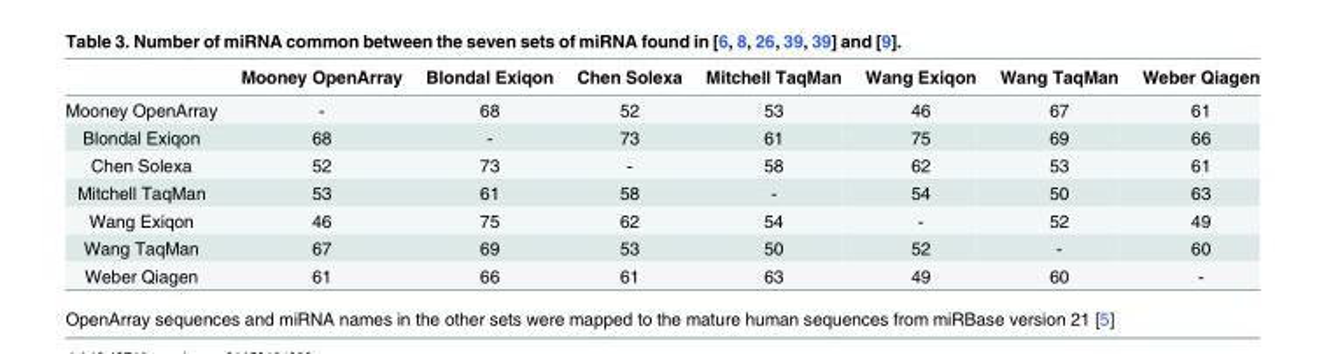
<table><thead><tr><td></td><td>Mooney OpenArray</td><td>Blondal Exiqon</td><td>Chen Solexa</td><td>Mitchell TaqMan</td><td>Wang Exiqon</td><td>Wang TaqMan</td><td>Weber Qiagen</td></tr></thead><tbody><tr><td>Mooney OpenArray</td><td>-</td><td>68</td><td>52</td><td>53</td><td>46</td><td>67</td><td>61</td></tr><tr><td>Blondal Exiqon</td><td>68</td><td>-</td><td>73</td><td>61</td><td>75</td><td>69</td><td>66</td></tr><tr><td>Chen Solexa</td><td>52</td><td>73</td><td>-</td><td>58</td><td>62</td><td>53</td><td>61</td></tr><tr><td>Mitchell TaqMan</td><td>53</td><td>61</td><td>58</td><td>-</td><td>54</td><td>50</td><td>63</td></tr><tr><td>Wang Exiqon</td><td>46</td><td>75</td><td>62</td><td>54</td><td>-</td><td>52</td><td>49</td></tr><tr><td>Wang TaqMan</td><td>67</td><td>69</td><td>53</td><td>50</td><td>52</td><td>-</td><td>60</td></tr><tr><td>Weber Qiagen</td><td>61</td><td>66</td><td>61</td><td>63</td><td>49</td><td>60</td><td>-</td></tr></tbody></table>